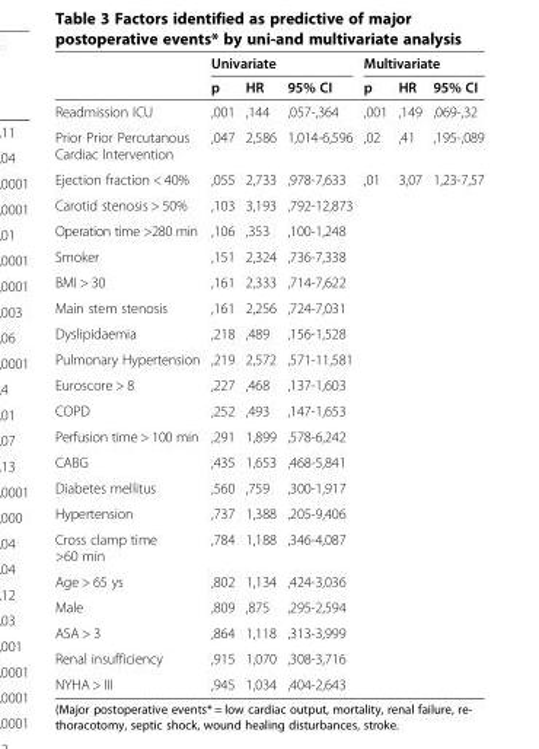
<table><thead><tr><td rowspan="2"></td><td colspan="3">Univariate</td><td colspan="3">Multivariate</td></tr><tr><td>p</td><td>HR</td><td>95% CI</td><td>p</td><td>HR</td><td>95% CI</td></tr></thead><tbody><tr><td>Readmission ICU</td><td>,001</td><td>,144</td><td>,057-,364</td><td>,001</td><td>,149</td><td>,069-,32</td></tr><tr><td>Prior Prior Percutanous Cardiac Intervention</td><td>,047</td><td>2,586</td><td>1,014-6,596</td><td>,02</td><td>,41</td><td>,195-,089</td></tr><tr><td>Ejection fraction &lt; 40%</td><td>,055</td><td>2,733</td><td>,978-7,633</td><td>,01</td><td>3,07</td><td>1,23-7,57</td></tr><tr><td>Carotid stenosis &gt; 50%</td><td>,103</td><td>3,193</td><td>,792-12,873</td><td></td><td></td><td></td></tr><tr><td>Operation time &gt;280 min</td><td>,106</td><td>,353</td><td>,100-1,248</td><td></td><td></td><td></td></tr><tr><td>Smoker</td><td>,151</td><td>2,324</td><td>,736-7,338</td><td></td><td></td><td></td></tr><tr><td>BMI &gt; 30</td><td>,161</td><td>2,333</td><td>,714-7,622</td><td></td><td></td><td></td></tr><tr><td>Main stem stenosis</td><td>,161</td><td>2,256</td><td>,724-7,031</td><td></td><td></td><td></td></tr><tr><td>Dyslipidaemia</td><td>,218</td><td>,489</td><td>,156-1,528</td><td></td><td></td><td></td></tr><tr><td>Pulmonary Hypertension</td><td>,219</td><td>2,572</td><td>,571-11,581</td><td></td><td></td><td></td></tr><tr><td>Euroscore &gt; 8</td><td>,227</td><td>,468</td><td>,137-1,603</td><td></td><td></td><td></td></tr><tr><td>COPD</td><td>,252</td><td>,493</td><td>,147-1,653</td><td></td><td></td><td></td></tr><tr><td>Perfusion time &gt; 100 min</td><td>,291</td><td>1,899</td><td>,578-6,242</td><td></td><td></td><td></td></tr><tr><td>CABG</td><td>,435</td><td>1,653</td><td>,468-5,841</td><td></td><td></td><td></td></tr><tr><td>Diabetes mellitus</td><td>,560</td><td>,759</td><td>,300-1,917</td><td></td><td></td><td></td></tr><tr><td>Hypertension</td><td>,737</td><td>1,388</td><td>,205-9,406</td><td></td><td></td><td></td></tr><tr><td>Cross clamp time &gt;60 min</td><td>,784</td><td>1,188</td><td>,346-4,087</td><td></td><td></td><td></td></tr><tr><td>Age &gt; 65 ys</td><td>,802</td><td>1,134</td><td>,424-3,036</td><td></td><td></td><td></td></tr><tr><td>Male</td><td>,809</td><td>,875</td><td>,295-2,594</td><td></td><td></td><td></td></tr><tr><td>ASA &gt; 3</td><td>,864</td><td>1,118</td><td>,313-3,999</td><td></td><td></td><td></td></tr><tr><td>Renal insufficiency</td><td>,915</td><td>1,070</td><td>,308-3,716</td><td></td><td></td><td></td></tr><tr><td>NYHA &gt; III</td><td>,945</td><td>1,034</td><td>,404-2,643</td><td></td><td></td><td></td></tr></tbody></table>